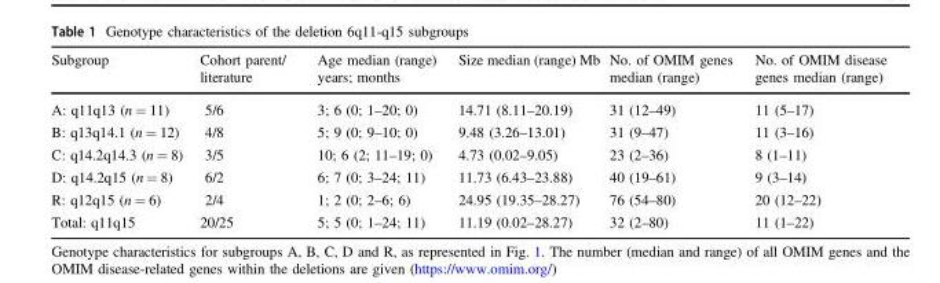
<table><thead><tr><td>Subgroup</td><td>Cohort parent/ literature</td><td>Age median (range) years; months</td><td>Size median (range) Mb</td><td>No. of OMIM genes median (range)</td><td>No. of OMIM disease genes median (range)</td></tr></thead><tbody><tr><td>A: q11q13 (n = 11)</td><td>5/6</td><td>3; 6 (0; 1–20; 0)</td><td>14.71 (8.11–20.19)</td><td>31 (12–49)</td><td>11 (5–17)</td></tr><tr><td>B: q13q14.1 (n = 12)</td><td>4/8</td><td>5; 9 (0; 9–10; 0)</td><td>9.48 (3.26–13.01)</td><td>31 (9–47)</td><td>11 (3–16)</td></tr><tr><td>C: q14.2q14.3 (n = 8)</td><td>3/5</td><td>10; 6 (2; 11–19; 0)</td><td>4.73 (0.02–9.05)</td><td>23 (2–36)</td><td>8 (1–11)</td></tr><tr><td>D: q14.2q15 (n = 8)</td><td>6/2</td><td>6; 7 (0; 3–24; 11)</td><td>11.73 (6.43–23.88)</td><td>40 (19–61)</td><td>9 (3–14)</td></tr><tr><td>R: q12q15 (n = 6)</td><td>2/4</td><td>1; 2 (0; 2–6; 6)</td><td>24.95 (19.35–28.27)</td><td>76 (54–80)</td><td>20 (12–22)</td></tr><tr><td>Total: q11q15</td><td>20/25</td><td>5; 5 (0; 1–24; 11)</td><td>11.19 (0.02–28.27)</td><td>32 (2–80)</td><td>11 (1–22)</td></tr></tbody></table>